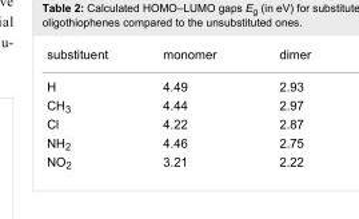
<table><tbody><tr><td>substituent</td><td>monomer</td><td>dimer</td></tr><tr><td>H</td><td>4.49</td><td>2.93</td></tr><tr><td>CH<sub>3</sub></td><td>4.44</td><td>2.97</td></tr><tr><td>Cl</td><td>4.22</td><td>2.87</td></tr><tr><td>NH<sub>2</sub></td><td>4.46</td><td>2.75</td></tr><tr><td>NO<sub>2</sub></td><td>3.21</td><td>2.22</td></tr></tbody></table>